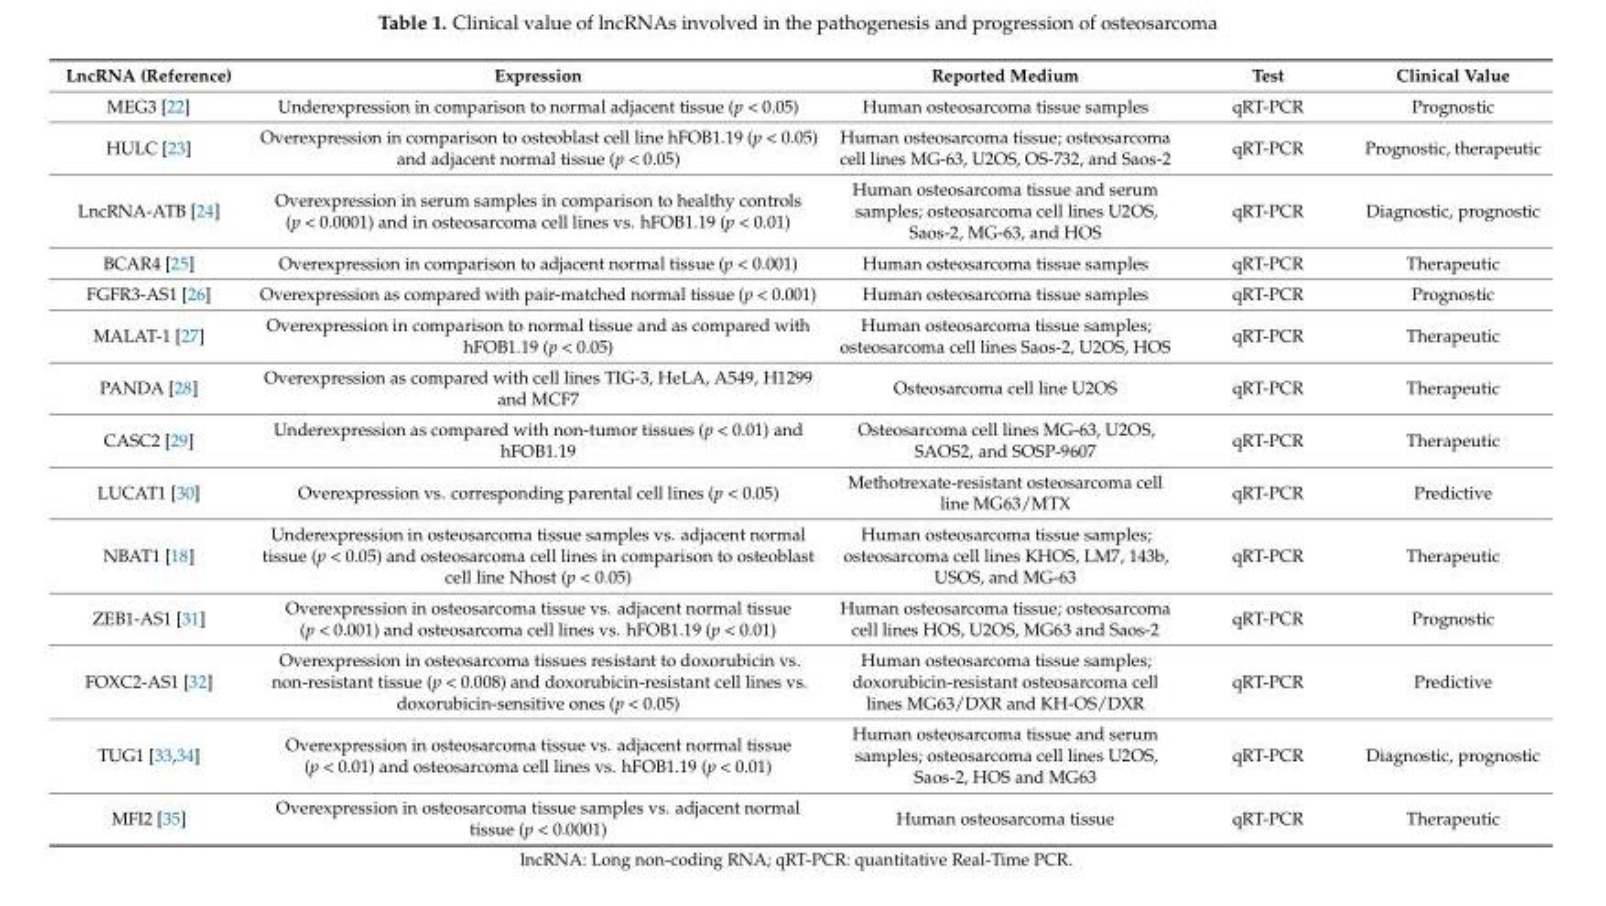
<table><thead><tr><td>LncRNA (Reference)</td><td>Expression</td><td>Reported Medium</td><td>Test</td><td>Clinical Value</td></tr></thead><tbody><tr><td>MEG3 [22]</td><td>Underexpression in comparison to normal adjacent tissue (p &lt; 0.05)</td><td>Human osteosarcoma tissue samples</td><td>qRT-PCR</td><td>Prognostic</td></tr><tr><td>HULC [23]</td><td>Overexpression in comparison to osteoblast cell line hFOB1.19 (p &lt; 0.05) and adjacent normal tissue (p &lt; 0.05)</td><td>Human osteosarcoma tissue; osteosarcoma cell lines MG-63, U2OS, OS-732, and Saos-2</td><td>qRT-PCR</td><td>Prognostic, therapeutic</td></tr><tr><td>LncRNA-ATB [24]</td><td>Overexpression in serum samples in comparison to healthy controls (p &lt; 0.0001) and in osteosarcoma cell lines vs. hFOB1.19 (p &lt; 0.01)</td><td>Human osteosarcoma tissue and serum samples; osteosarcoma cell lines U2OS, Saos-2, MG-63, and HOS</td><td>qRT-PCR</td><td>Diagnostic, prognostic</td></tr><tr><td>BCAR4 [25]</td><td>Overexpression in comparison to adjacent normal tissue (p &lt; 0.001)</td><td>Human osteosarcoma tissue samples</td><td>qRT-PCR</td><td>Therapeutic</td></tr><tr><td>FGFR3-AS1 [26]</td><td>Overexpression as compared with pair-matched normal tissue (p &lt; 0.001)</td><td>Human osteosarcoma tissue samples</td><td>qRT-PCR</td><td>Prognostic</td></tr><tr><td>MALAT-1 [27]</td><td>Overexpression in comparison to normal tissue and as compared with hFOB1.19 (p &lt; 0.05)</td><td>Human osteosarcoma tissue samples; osteosarcoma cell lines Saos-2, U2OS, HOS</td><td>qRT-PCR</td><td>Therapeutic</td></tr><tr><td>PANDA [28]</td><td>Overexpression as compared with cell lines TIG-3, HeLA, A549, H1299 and MCF7</td><td>Osteosarcoma cell line U2OS</td><td>qRT-PCR</td><td>Therapeutic</td></tr><tr><td>CASC2 [29]</td><td>Underexpression as compared with non-tumor tissues (p &lt; 0.01) and hFOB1.19</td><td>Osteosarcoma cell lines MG-63, U2OS, SAOS2, and SOSP-9607</td><td>qRT-PCR</td><td>Therapeutic</td></tr><tr><td>LUCAT1 [30]</td><td>Overexpression vs. corresponding parental cell lines (p &lt; 0.05)</td><td>Methotrexate-resistant osteosarcoma cell line MG63/MTX</td><td>qRT-PCR</td><td>Predictive</td></tr><tr><td>NBAT1 [18]</td><td>Underexpression in osteosarcoma tissue samples vs. adjacent normal tissue (p &lt; 0.05) and osteosarcoma cell lines in comparison to osteoblast cell line Nhost (p &lt; 0.05)</td><td>Human osteosarcoma tissue samples; osteosarcoma cell lines KHOS, LM7, 143b, USOS, and MG-63</td><td>qRT-PCR</td><td>Therapeutic</td></tr><tr><td>ZEB1-AS1 [31]</td><td>Overexpression in osteosarcoma tissue vs. adjacent normal tissue (p &lt; 0.001) and osteosarcoma cell lines vs. hFOB1.19 (p &lt; 0.01)</td><td>Human osteosarcoma tissue; osteosarcoma cell lines HOS, U2OS, MG63 and Saos-2</td><td>qRT-PCR</td><td>Prognostic</td></tr><tr><td>FOXC2-AS1 [32]</td><td>Overexpression in osteosarcoma tissues resistant to doxorubicin vs. non-resistant tissue (p &lt; 0.008) and doxorubicin-resistant cell lines vs. doxorubicin-sensitive ones (p &lt; 0.05)</td><td>Human osteosarcoma tissue samples; doxorubicin-resistant osteosarcoma cell lines MG63/DXR and KH-OS/DXR</td><td>qRT-PCR</td><td>Predictive</td></tr><tr><td>TUG1 [33,34]</td><td>Overexpression in osteosarcoma tissue vs. adjacent normal tissue (p &lt; 0.01) and osteosarcoma cell lines vs. hFOB1.19 (p &lt; 0.01)</td><td>Human osteosarcoma tissue and serum samples; osteosarcoma cell lines U2OS, Saos-2, HOS and MG63</td><td>qRT-PCR</td><td>Diagnostic, prognostic</td></tr><tr><td>MFI2 [35]</td><td>Overexpression in osteosarcoma tissue samples vs. adjacent normal tissue (p &lt; 0.0001)</td><td>Human osteosarcoma tissue</td><td>qRT-PCR</td><td>Therapeutic</td></tr></tbody></table>